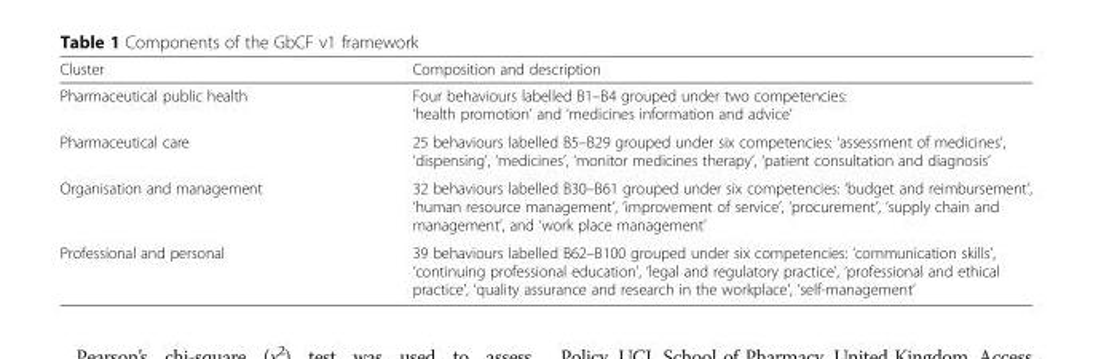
<table><thead><tr><td>Cluster</td><td>Composition and description</td></tr></thead><tbody><tr><td>Pharmaceutical public health</td><td>Four behaviours labelled B1–B4 grouped under two competencies: ‘health promotion’ and ‘medicines information and advice’</td></tr><tr><td>Pharmaceutical care</td><td>25 behaviours labelled B5–B29 grouped under six competencies: ‘assessment of medicines’, ‘dispensing’, ‘medicines’, ‘monitor medicines therapy’, ‘patient consultation and diagnosis’</td></tr><tr><td>Organisation and management</td><td>32 behaviours labelled B30–B61 grouped under six competencies: ‘budget and reimbursement’, ‘human resource management’, ‘improvement of service’, ‘procurement’, ‘supply chain and management’, and ‘work place management’</td></tr><tr><td>Professional and personal</td><td>39 behaviours labelled B62–B100 grouped under six competencies: ‘communication skills’, ‘continuing professional education’, ‘legal and regulatory practice’, ‘professional and ethical practice’, ‘quality assurance and research in the workplace’, ‘self-management’</td></tr></tbody></table>